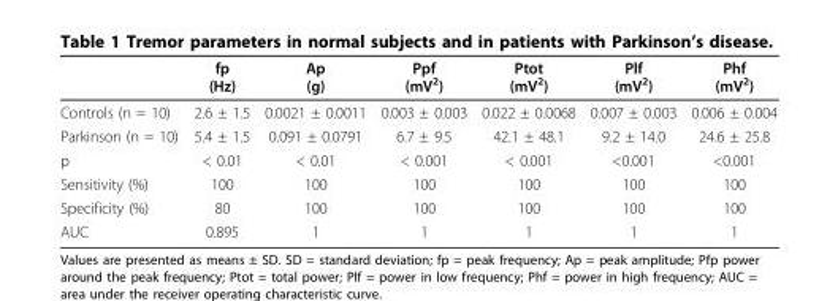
<table><thead><tr><td></td><td>fp (Hz)</td><td>Ap (g)</td><td>Ppf (mV<sup>2</sup>)</td><td>Ptot (mV<sup>2</sup>)</td><td>Plf (mV<sup>2</sup>)</td><td>Phf (mV<sup>2</sup>)</td></tr></thead><tbody><tr><td>Controls (n = 10)</td><td>2.6 ± 1.5</td><td>0.0021 ± 0.0011</td><td>0.003 ± 0.003</td><td>0.022 ± 0.0068</td><td>0.007 ± 0.003</td><td>0.006 ± 0.004</td></tr><tr><td>Parkinson (n = 10)</td><td>5.4 ± 1.5</td><td>0.091 ± 0.0791</td><td>6.7 ± 9.5</td><td>42.1 ± 48.1</td><td>9.2 ± 14.0</td><td>24.6 ± 25.8</td></tr><tr><td>p</td><td>&lt; 0.01</td><td>&lt; 0.01</td><td>&lt; 0.001</td><td>&lt; 0.001</td><td>&lt;0.001</td><td>&lt;0.001</td></tr><tr><td>Sensitivity (%)</td><td>100</td><td>100</td><td>100</td><td>100</td><td>100</td><td>100</td></tr><tr><td>Specificity (%)</td><td>80</td><td>100</td><td>100</td><td>100</td><td>100</td><td>100</td></tr><tr><td>AUC</td><td>0.895</td><td>1</td><td>1</td><td>1</td><td>1</td><td>1</td></tr></tbody></table>